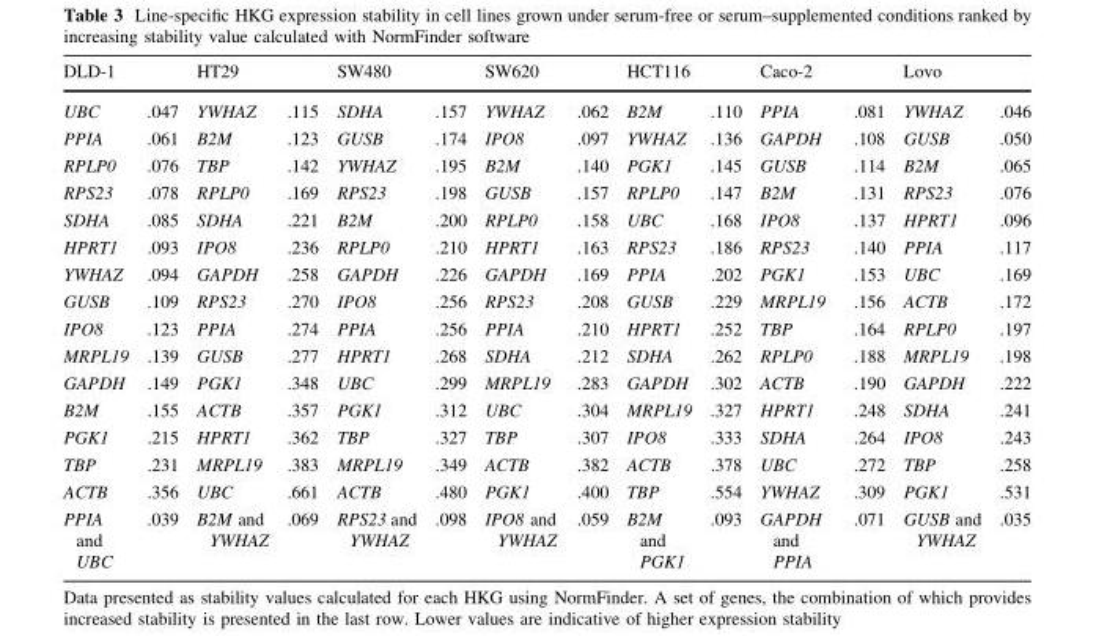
<table><thead><tr><td colspan="2">DLD-1</td><td colspan="2">HT29</td><td colspan="2">SW480</td><td colspan="2">SW620</td><td colspan="2">HCT116</td><td colspan="2">Caco-2</td><td colspan="2">Lovo</td></tr><tr><td>UBC</td><td>.047</td><td>YWHAZ</td><td>.115</td><td>SDHA</td><td>.157</td><td>YWHAZ</td><td>.062</td><td>B2M</td><td>.110</td><td>PPIA</td><td>.081</td><td>YWHAZ</td><td>.046</td></tr></thead><tbody><tr><td>PPIA</td><td>.061</td><td>B2M</td><td>.123</td><td>GUSB</td><td>.174</td><td>IPO8</td><td>.097</td><td>YWHAZ</td><td>.136</td><td>GAPDH</td><td>.108</td><td>GUSB</td><td>.050</td></tr><tr><td>RPLP0</td><td>.076</td><td>TBP</td><td>.142</td><td>YWHAZ</td><td>.195</td><td>B2M</td><td>.140</td><td>PGK1</td><td>.145</td><td>GUSB</td><td>.114</td><td>B2M</td><td>.065</td></tr><tr><td>RPS23</td><td>.078</td><td>RPLP0</td><td>.169</td><td>RPS23</td><td>.198</td><td>GUSB</td><td>.157</td><td>RPLP0</td><td>.147</td><td>B2M</td><td>.131</td><td>RPS23</td><td>.076</td></tr><tr><td>SDHA</td><td>.085</td><td>SDHA</td><td>.221</td><td>B2M</td><td>.200</td><td>RPLP0</td><td>.158</td><td>UBC</td><td>.168</td><td>IPO8</td><td>.137</td><td>HPRT1</td><td>.096</td></tr><tr><td>HPRT1</td><td>.093</td><td>IPO8</td><td>.236</td><td>RPLP0</td><td>.210</td><td>HPRT1</td><td>.163</td><td>RPS23</td><td>.186</td><td>RPS23</td><td>.140</td><td>PPIA</td><td>.117</td></tr><tr><td>YWHAZ</td><td>.094</td><td>GAPDH</td><td>.258</td><td>GAPDH</td><td>.226</td><td>GAPDH</td><td>.169</td><td>PPIA</td><td>.202</td><td>PGK1</td><td>.153</td><td>UBC</td><td>.169</td></tr><tr><td>GUSB</td><td>.109</td><td>RPS23</td><td>.270</td><td>IPO8</td><td>.256</td><td>RPS23</td><td>.208</td><td>GUSB</td><td>.229</td><td>MRPL19</td><td>.156</td><td>ACTB</td><td>.172</td></tr><tr><td>IPO8</td><td>.123</td><td>PPIA</td><td>.274</td><td>PPIA</td><td>.256</td><td>PPIA</td><td>.210</td><td>HPRT1</td><td>.252</td><td>TBP</td><td>.164</td><td>RPLP0</td><td>.197</td></tr><tr><td>MRPL19</td><td>.139</td><td>GUSB</td><td>.277</td><td>HPRT1</td><td>.268</td><td>SDHA</td><td>.212</td><td>SDHA</td><td>.262</td><td>RPLP0</td><td>.188</td><td>MRPL19</td><td>.198</td></tr><tr><td>GAPDH</td><td>.149</td><td>PGK1</td><td>.348</td><td>UBC</td><td>.299</td><td>MRPL19</td><td>.283</td><td>GAPDH</td><td>.302</td><td>ACTB</td><td>.190</td><td>GAPDH</td><td>.222</td></tr><tr><td>B2M</td><td>.155</td><td>ACTB</td><td>.357</td><td>PGK1</td><td>.312</td><td>UBC</td><td>.304</td><td>MRPL19</td><td>.327</td><td>HPRT1</td><td>.248</td><td>SDHA</td><td>.241</td></tr><tr><td>PGK1</td><td>.215</td><td>HPRT1</td><td>.362</td><td>TBP</td><td>.327</td><td>TBP</td><td>.307</td><td>IPO8</td><td>.333</td><td>SDHA</td><td>.264</td><td>IPO8</td><td>.243</td></tr><tr><td>TBP</td><td>.231</td><td>MRPL19</td><td>.383</td><td>MRPL19</td><td>.349</td><td>ACTB</td><td>.382</td><td>ACTB</td><td>.378</td><td>UBC</td><td>.272</td><td>TBP</td><td>.258</td></tr><tr><td>ACTB</td><td>.356</td><td>UBC</td><td>.661</td><td>ACTB</td><td>.480</td><td>PGK1</td><td>.400</td><td>TBP</td><td>.554</td><td>YWHAZ</td><td>.309</td><td>PGK1</td><td>.531</td></tr><tr><td>PPIA and UBC</td><td>.039</td><td>B2M and YWHAZ</td><td>.069</td><td>RPS23 and YWHAZ</td><td>.098</td><td>IPO8 and YWHAZ</td><td>.059</td><td>B2M and PGK1</td><td>.093</td><td>GAPDH and PPIA</td><td>.071</td><td>GUSB and YWHAZ</td><td>.035</td></tr></tbody></table>